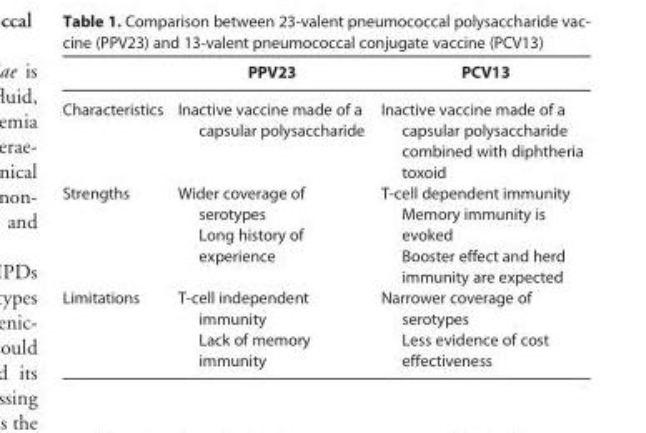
<table><thead><tr><td></td><td>PPV23</td><td>PCV13</td></tr></thead><tbody><tr><td>Characteristics</td><td>Inactive vaccine made of a capsular polysaccharide</td><td>Inactive vaccine made of a capsular polysaccharide combined with diphtheria toxoid</td></tr><tr><td>Strengths</td><td>Wider coverage of serotypes Long history of experience</td><td>T-cell dependent immunity Memory immunity is evoked Booster effect and herd immunity are expected</td></tr><tr><td>Limitations</td><td>T-cell independent immunity Lack of memory immunity</td><td>Narrower coverage of serotypes Less evidence of cost effectiveness</td></tr></tbody></table>